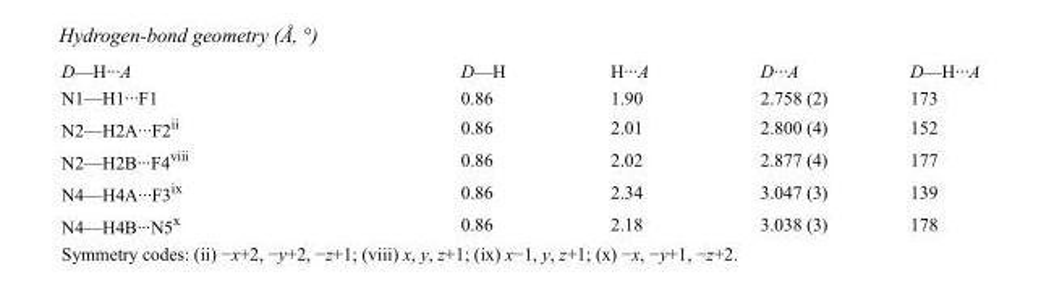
<table><tbody><tr><td>D—H···A</td><td>D—H</td><td>H···A</td><td>D···A</td><td>D—H···A</td></tr><tr><td>N1—H1···F1</td><td>0.86</td><td>1.90</td><td>2.758 (2)</td><td>173</td></tr><tr><td>N2—H2A···F2<sup>ii</sup></td><td>0.86</td><td>2.01</td><td>2.800 (4)</td><td>152</td></tr><tr><td>N2—H2B···F4<sup>viii</sup></td><td>0.86</td><td>2.02</td><td>2.877 (4)</td><td>177</td></tr><tr><td>N4—H4A···F3<sup>ix</sup></td><td>0.86</td><td>2.34</td><td>3.047 (3)</td><td>139</td></tr><tr><td>N4—H4B···N5<sup>x</sup></td><td>0.86</td><td>2.18</td><td>3.038 (3)</td><td>178</td></tr></tbody></table>